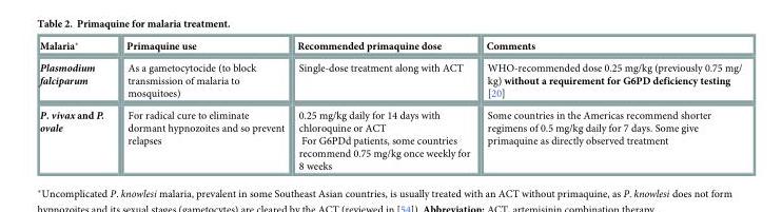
<table><thead><tr><td>Malaria*</td><td>Primaquine use</td><td>Recommended primaquine dose</td><td>Comments</td></tr></thead><tbody><tr><td>Plasmodium falciparum</td><td>As a gametocytocide (to block transmission of malaria to mosquitoes)</td><td>Single-dose treatment along with ACT</td><td>WHO-recommended dose 0.25 mg/kg (previously 0.75 mg/ kg) without a requirement for G6PD deficiency testing [20]</td></tr><tr><td>P. vivax and P. ovale</td><td>For radical cure to eliminate dormant hypnozoites and so prevent relapses</td><td>0.25 mg/kg daily for 14 days with chloroquine or ACT For G6PDd patients, some countries recommend 0.75 mg/kg once weekly for 8 weeks</td><td>Some countries in the Americas recommend shorter regimens of 0.5 mg/kg daily for 7 days. Some give primaquine as directly observed treatment</td></tr></tbody></table>